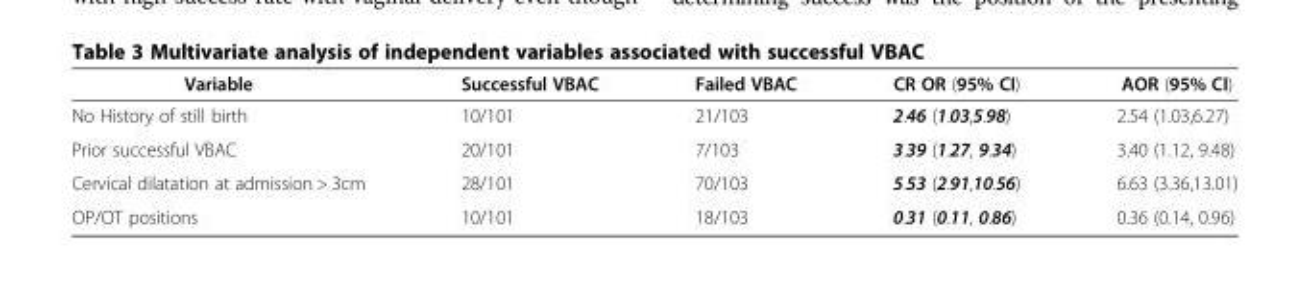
<table><thead><tr><td>Variable</td><td>Successful VBAC</td><td>Failed VBAC</td><td>CR OR (95% CI)</td><td>AOR (95% CI)</td></tr></thead><tbody><tr><td>No History of still birth</td><td>10/101</td><td>21/103</td><td>2.46 (1.03,5.98)</td><td>2.54 (1.03,6.27)</td></tr><tr><td>Prior successful VBAC</td><td>20/101</td><td>7/103</td><td>3.39 (1.27, 9.34)</td><td>3.40 (1.12, 9.48)</td></tr><tr><td>Cervical dilatation at admission &gt; 3cm</td><td>28/101</td><td>70/103</td><td>5.53 (2.91,10.56)</td><td>6.63 (3.36,13.01)</td></tr><tr><td>OP/OT positions</td><td>10/101</td><td>18/103</td><td>0.31 (0.11, 0.86)</td><td>0.36 (0.14, 0.96)</td></tr></tbody></table>